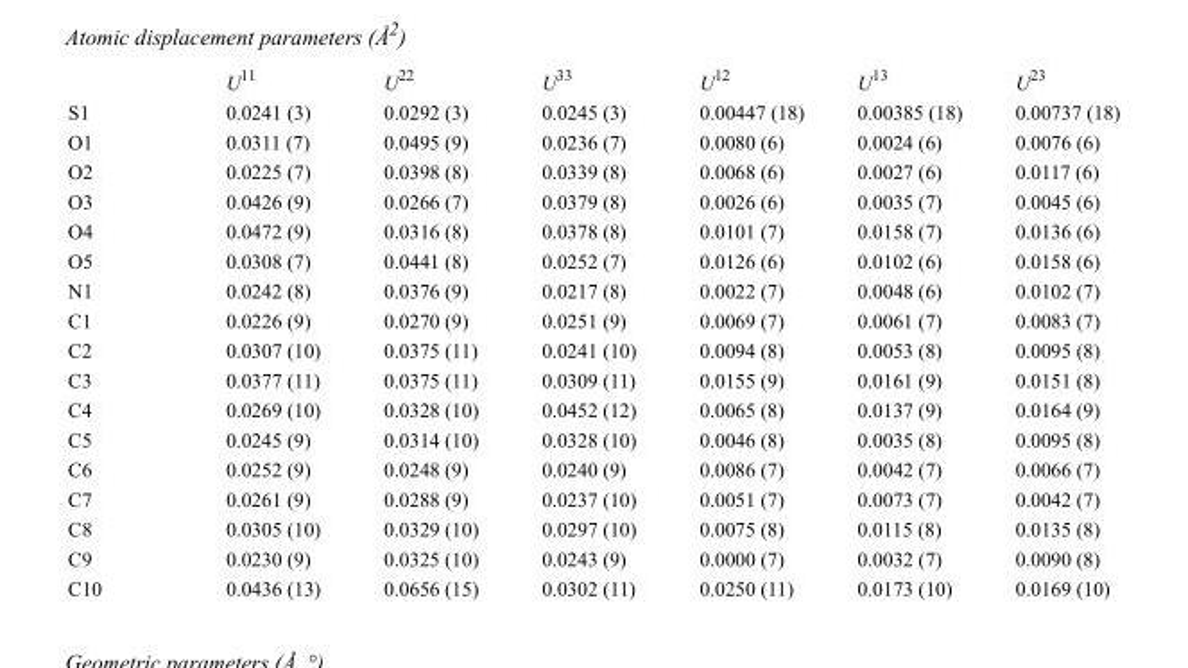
<table><thead><tr><td></td><td>U<sup>11</sup></td><td>U<sup>22</sup></td><td>U<sup>33</sup></td><td>U<sup>12</sup></td><td>U<sup>13</sup></td><td>U<sup>23</sup></td></tr></thead><tbody><tr><td>S1</td><td>0.0241 (3)</td><td>0.0292 (3)</td><td>0.0245 (3)</td><td>0.00447 (18)</td><td>0.00385 (18)</td><td>0.00737 (18)</td></tr><tr><td>O1</td><td>0.0311 (7)</td><td>0.0495 (9)</td><td>0.0236 (7)</td><td>0.0080 (6)</td><td>0.0024 (6)</td><td>0.0076 (6)</td></tr><tr><td>O2</td><td>0.0225 (7)</td><td>0.0398 (8)</td><td>0.0339 (8)</td><td>0.0068 (6)</td><td>0.0027 (6)</td><td>0.0117 (6)</td></tr><tr><td>O3</td><td>0.0426 (9)</td><td>0.0266 (7)</td><td>0.0379 (8)</td><td>0.0026 (6)</td><td>0.0035 (7)</td><td>0.0045 (6)</td></tr><tr><td>O4</td><td>0.0472 (9)</td><td>0.0316 (8)</td><td>0.0378 (8)</td><td>0.0101 (7)</td><td>0.0158 (7)</td><td>0.0136 (6)</td></tr><tr><td>O5</td><td>0.0308 (7)</td><td>0.0441 (8)</td><td>0.0252 (7)</td><td>0.0126 (6)</td><td>0.0102 (6)</td><td>0.0158 (6)</td></tr><tr><td>N1</td><td>0.0242 (8)</td><td>0.0376 (9)</td><td>0.0217 (8)</td><td>0.0022 (7)</td><td>0.0048 (6)</td><td>0.0102 (7)</td></tr><tr><td>C1</td><td>0.0226 (9)</td><td>0.0270 (9)</td><td>0.0251 (9)</td><td>0.0069 (7)</td><td>0.0061 (7)</td><td>0.0083 (7)</td></tr><tr><td>C2</td><td>0.0307 (10)</td><td>0.0375 (11)</td><td>0.0241 (10)</td><td>0.0094 (8)</td><td>0.0053 (8)</td><td>0.0095 (8)</td></tr><tr><td>C3</td><td>0.0377 (11)</td><td>0.0375 (11)</td><td>0.0309 (11)</td><td>0.0155 (9)</td><td>0.0161 (9)</td><td>0.0151 (8)</td></tr><tr><td>C4</td><td>0.0269 (10)</td><td>0.0328 (10)</td><td>0.0452 (12)</td><td>0.0065 (8)</td><td>0.0137 (9)</td><td>0.0164 (9)</td></tr><tr><td>C5</td><td>0.0245 (9)</td><td>0.0314 (10)</td><td>0.0328 (10)</td><td>0.0046 (8)</td><td>0.0035 (8)</td><td>0.0095 (8)</td></tr><tr><td>C6</td><td>0.0252 (9)</td><td>0.0248 (9)</td><td>0.0240 (9)</td><td>0.0086 (7)</td><td>0.0042 (7)</td><td>0.0066 (7)</td></tr><tr><td>C7</td><td>0.0261 (9)</td><td>0.0288 (9)</td><td>0.0237 (10)</td><td>0.0051 (7)</td><td>0.0073 (7)</td><td>0.0042 (7)</td></tr><tr><td>C8</td><td>0.0305 (10)</td><td>0.0329 (10)</td><td>0.0297 (10)</td><td>0.0075 (8)</td><td>0.0115 (8)</td><td>0.0135 (8)</td></tr><tr><td>C9</td><td>0.0230 (9)</td><td>0.0325 (10)</td><td>0.0243 (9)</td><td>0.0000 (7)</td><td>0.0032 (7)</td><td>0.0090 (8)</td></tr><tr><td>C10</td><td>0.0436 (13)</td><td>0.0656 (15)</td><td>0.0302 (11)</td><td>0.0250 (11)</td><td>0.0173 (10)</td><td>0.0169 (10)</td></tr></tbody></table>